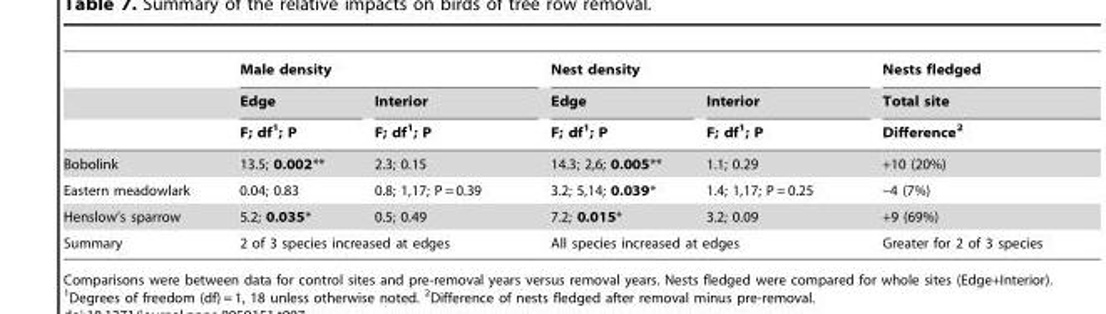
<table><thead><tr><td rowspan="3"></td><td colspan="2">Male density</td><td colspan="2">Nest density</td><td rowspan="3">Nests fledged Total site Difference<sup>2</sup></td></tr><tr><td rowspan="2">Edge F; df<sup>1</sup>; P</td><td rowspan="2">Interior F; df<sup>1</sup>; P</td><td rowspan="2">Edge F; df<sup>1</sup>; P</td><td rowspan="2">Interior F; df<sup>1</sup>; P</td></tr><tr></tr></thead><tbody><tr><td>Bobolink</td><td>13.5; 0.002**</td><td>2.3; 0.15</td><td>14.3; 2,6; 0.005**</td><td>1.1; 0.29</td><td>+10 (20%)</td></tr><tr><td>Eastern meadowlark</td><td>0.04; 0.83</td><td>0.8; 1,17; P = 0.39</td><td>3.2; 5,14; 0.039*</td><td>1.4; 1,17; P = 0.25</td><td>–4 (7%)</td></tr><tr><td>Henslow’s sparrow</td><td>5.2; 0.035*</td><td>0.5; 0.49</td><td>7.2; 0.015*</td><td>3.2; 0.09</td><td>+9 (69%)</td></tr><tr><td>Summary</td><td colspan="2">2 of 3 species increased at edges</td><td colspan="2">All species increased at edges</td><td>Greater for 2 of 3 species</td></tr></tbody></table>